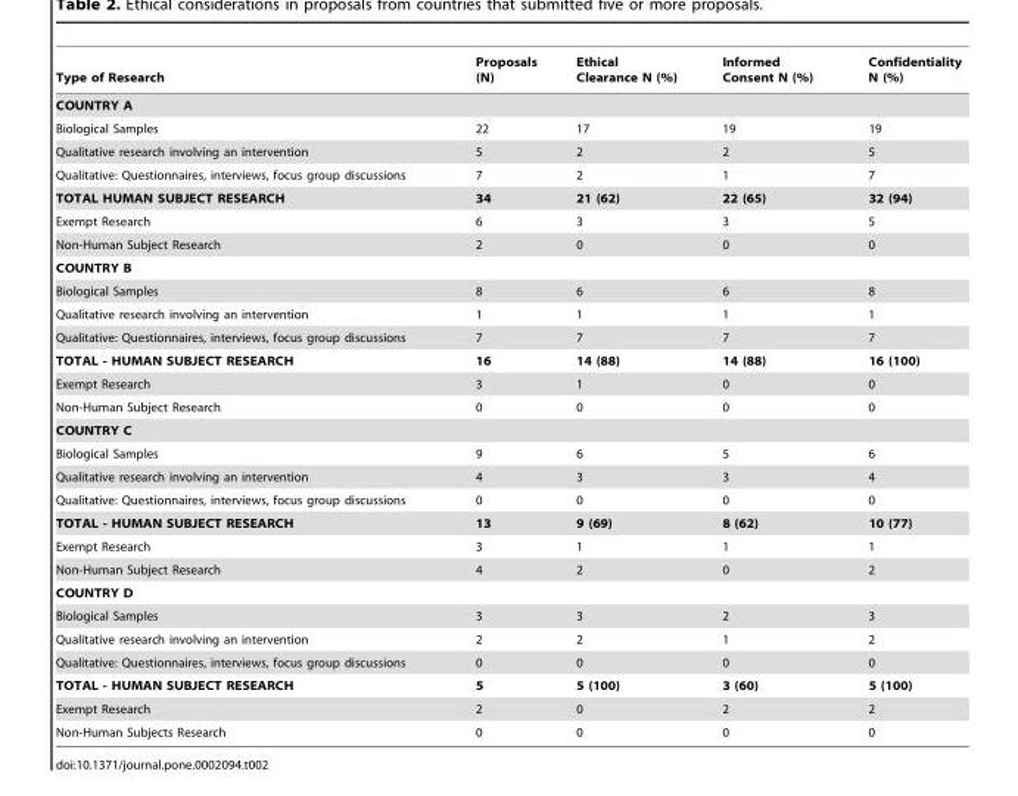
<table><thead><tr><td>Type of Research</td><td>Proposals (N)</td><td>Ethical Clearance N (%)</td><td>Informed Consent N (%)</td><td>Confidentiality N (%)</td></tr></thead><tbody><tr><td colspan="5">COUNTRY A</td></tr><tr><td>Biological Samples</td><td>22</td><td>17</td><td>19</td><td>19</td></tr><tr><td>Qualitative research involving an intervention</td><td>5</td><td>2</td><td>2</td><td>5</td></tr><tr><td>Qualitative: Questionnaires, interviews, focus group discussions</td><td>7</td><td>2</td><td>1</td><td>7</td></tr><tr><td>TOTAL HUMAN SUBJECT RESEARCH</td><td>34</td><td>21 (62)</td><td>22 (65)</td><td>32 (94)</td></tr><tr><td>Exempt Research</td><td>6</td><td>3</td><td>3</td><td>5</td></tr><tr><td>Non-Human Subject Research</td><td>2</td><td>0</td><td>0</td><td>0</td></tr><tr><td colspan="5">COUNTRY B</td></tr><tr><td>Biological Samples</td><td>8</td><td>6</td><td>6</td><td>8</td></tr><tr><td>Qualitative research involving an intervention</td><td>1</td><td>1</td><td>1</td><td>1</td></tr><tr><td>Qualitative: Questionnaires, interviews, focus group discussions</td><td>7</td><td>7</td><td>7</td><td>7</td></tr><tr><td>TOTAL - HUMAN SUBJECT RESEARCH</td><td>16</td><td>14 (88)</td><td>14 (88)</td><td>16 (100)</td></tr><tr><td>Exempt Research</td><td>3</td><td>1</td><td>0</td><td>0</td></tr><tr><td>Non-Human Subject Research</td><td>0</td><td>0</td><td>0</td><td>0</td></tr><tr><td colspan="5">COUNTRY C</td></tr><tr><td>Biological Samples</td><td>9</td><td>6</td><td>5</td><td>6</td></tr><tr><td>Qualitative research involving an intervention</td><td>4</td><td>3</td><td>3</td><td>4</td></tr><tr><td>Qualitative: Questionnaires, interviews, focus group discussions</td><td>0</td><td>0</td><td>0</td><td>0</td></tr><tr><td>TOTAL - HUMAN SUBJECT RESEARCH</td><td>13</td><td>9 (69)</td><td>8 (62)</td><td>10 (77)</td></tr><tr><td>Exempt Research</td><td>3</td><td>1</td><td>1</td><td>1</td></tr><tr><td>Non-Human Subject Research</td><td>4</td><td>2</td><td>0</td><td>2</td></tr><tr><td colspan="5">COUNTRY D</td></tr><tr><td>Biological Samples</td><td>3</td><td>3</td><td>2</td><td>3</td></tr><tr><td>Qualitative research involving an intervention</td><td>2</td><td>2</td><td>1</td><td>2</td></tr><tr><td>Qualitative: Questionnaires, interviews, focus group discussions</td><td>0</td><td>0</td><td>0</td><td>0</td></tr><tr><td>TOTAL - HUMAN SUBJECT RESEARCH</td><td>5</td><td>5 (100)</td><td>3 (60)</td><td>5 (100)</td></tr><tr><td>Exempt Research</td><td>2</td><td>0</td><td>2</td><td>2</td></tr><tr><td>Non-Human Subjects Research</td><td>0</td><td>0</td><td>0</td><td>0</td></tr></tbody></table>